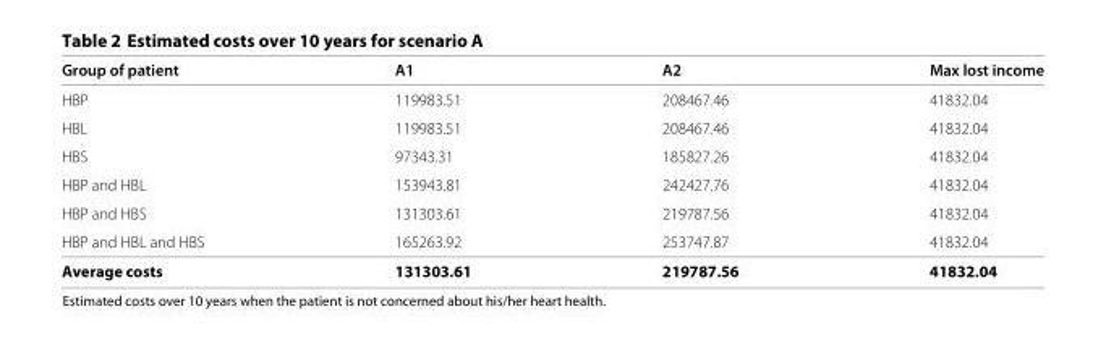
<table><thead><tr><td>Group of patient</td><td>A1</td><td>A2</td><td>Max lost income</td></tr></thead><tbody><tr><td>HBP</td><td>119983.51</td><td>208467.46</td><td>41832.04</td></tr><tr><td>HBL</td><td>119983.51</td><td>208467.46</td><td>41832.04</td></tr><tr><td>HBS</td><td>97343.31</td><td>185827.26</td><td>41832.04</td></tr><tr><td>HBP and HBL</td><td>153943.81</td><td>242427.76</td><td>41832.04</td></tr><tr><td>HBP and HBS</td><td>131303.61</td><td>219787.56</td><td>41832.04</td></tr><tr><td>HBP and HBL and HBS</td><td>165263.92</td><td>253747.87</td><td>41832.04</td></tr><tr><td>Average costs</td><td>131303.61</td><td>219787.56</td><td>41832.04</td></tr></tbody></table>